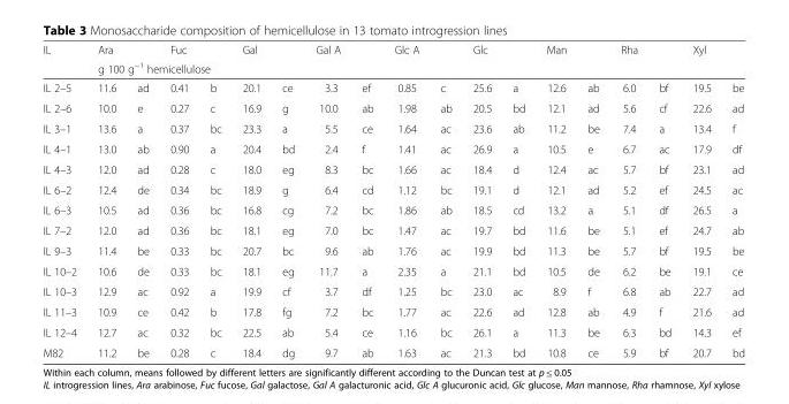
<table><thead><tr><td rowspan="2">IL</td><td>Ara</td><td></td><td>Fuc</td><td></td><td>Gal</td><td></td><td>Gal A</td><td></td><td>Glc A</td><td></td><td>Glc</td><td></td><td>Man</td><td></td><td>Rha</td><td></td><td>Xyl</td><td></td></tr><tr><td colspan="18">g 100 g<sup>−1</sup> hemicellulose</td></tr></thead><tbody><tr><td>IL 2–5</td><td>11.6</td><td>ad</td><td>0.41</td><td>b</td><td>20.1</td><td>ce</td><td>3.3</td><td>ef</td><td>0.85</td><td>c</td><td>25.6</td><td>a</td><td>12.6</td><td>ab</td><td>6.0</td><td>bf</td><td>19.5</td><td>be</td></tr><tr><td>IL 2–6</td><td>10.0</td><td>e</td><td>0.27</td><td>c</td><td>16.9</td><td>g</td><td>10.0</td><td>ab</td><td>1.98</td><td>ab</td><td>20.5</td><td>bd</td><td>12.1</td><td>ad</td><td>5.6</td><td>cf</td><td>22.6</td><td>ad</td></tr><tr><td>IL 3–1</td><td>13.6</td><td>a</td><td>0.37</td><td>bc</td><td>23.3</td><td>a</td><td>5.5</td><td>ce</td><td>1.64</td><td>ac</td><td>23.6</td><td>ab</td><td>11.2</td><td>be</td><td>7.4</td><td>a</td><td>13.4</td><td>f</td></tr><tr><td>IL 4–1</td><td>13.0</td><td>ab</td><td>0.90</td><td>a</td><td>20.4</td><td>bd</td><td>2.4</td><td>f</td><td>1.41</td><td>ac</td><td>26.9</td><td>a</td><td>10.5</td><td>e</td><td>6.7</td><td>ac</td><td>17.9</td><td>df</td></tr><tr><td>IL 4–3</td><td>12.0</td><td>ad</td><td>0.28</td><td>c</td><td>18.0</td><td>eg</td><td>8.3</td><td>bc</td><td>1.66</td><td>ac</td><td>18.4</td><td>d</td><td>12.4</td><td>ac</td><td>5.7</td><td>bf</td><td>23.1</td><td>ad</td></tr><tr><td>IL 6–2</td><td>12.4</td><td>de</td><td>0.34</td><td>bc</td><td>18.9</td><td>g</td><td>6.4</td><td>cd</td><td>1.12</td><td>bc</td><td>19.1</td><td>d</td><td>12.1</td><td>ad</td><td>5.2</td><td>ef</td><td>24.5</td><td>ac</td></tr><tr><td>IL 6–3</td><td>10.5</td><td>ad</td><td>0.36</td><td>bc</td><td>16.8</td><td>cg</td><td>7.2</td><td>bc</td><td>1.86</td><td>ab</td><td>18.5</td><td>cd</td><td>13.2</td><td>a</td><td>5.1</td><td>df</td><td>26.5</td><td>a</td></tr><tr><td>IL 7–2</td><td>12.0</td><td>ad</td><td>0.36</td><td>bc</td><td>18.1</td><td>eg</td><td>7.0</td><td>bc</td><td>1.47</td><td>ac</td><td>19.7</td><td>bd</td><td>11.6</td><td>be</td><td>5.1</td><td>ef</td><td>24.7</td><td>ab</td></tr><tr><td>IL 9–3</td><td>11.4</td><td>be</td><td>0.33</td><td>bc</td><td>20.7</td><td>bc</td><td>9.6</td><td>ab</td><td>1.76</td><td>ac</td><td>19.9</td><td>bd</td><td>11.3</td><td>be</td><td>5.7</td><td>bf</td><td>19.5</td><td>be</td></tr><tr><td>IL 10–2</td><td>10.6</td><td>de</td><td>0.33</td><td>bc</td><td>18.1</td><td>eg</td><td>11.7</td><td>a</td><td>2.35</td><td>a</td><td>21.1</td><td>bd</td><td>10.5</td><td>de</td><td>6.2</td><td>be</td><td>19.1</td><td>ce</td></tr><tr><td>IL 10–3</td><td>12.9</td><td>ac</td><td>0.92</td><td>a</td><td>19.9</td><td>cf</td><td>3.7</td><td>df</td><td>1.25</td><td>bc</td><td>23.0</td><td>ac</td><td>8.9</td><td>f</td><td>6.8</td><td>ab</td><td>22.7</td><td>ad</td></tr><tr><td>IL 11–3</td><td>10.9</td><td>ce</td><td>0.42</td><td>b</td><td>17.8</td><td>fg</td><td>7.2</td><td>bc</td><td>1.77</td><td>ac</td><td>22.6</td><td>ad</td><td>12.8</td><td>ab</td><td>4.9</td><td>f</td><td>21.6</td><td>ad</td></tr><tr><td>IL 12–4</td><td>12.7</td><td>ac</td><td>0.32</td><td>bc</td><td>22.5</td><td>ab</td><td>5.4</td><td>ce</td><td>1.16</td><td>bc</td><td>26.1</td><td>a</td><td>11.3</td><td>be</td><td>6.3</td><td>bd</td><td>14.3</td><td>ef</td></tr><tr><td>M82</td><td>11.2</td><td>be</td><td>0.28</td><td>c</td><td>18.4</td><td>dg</td><td>9.7</td><td>ab</td><td>1.63</td><td>ac</td><td>21.3</td><td>bd</td><td>10.8</td><td>ce</td><td>5.9</td><td>bf</td><td>20.7</td><td>bd</td></tr></tbody></table>